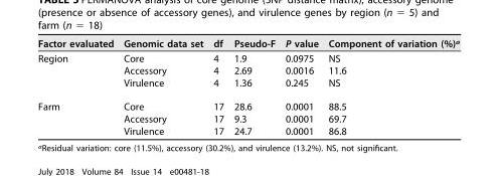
<table><thead><tr><td>Factor evaluated</td><td>Genomic data set</td><td>df</td><td>Pseudo-F</td><td>P value</td><td>Component of variation (%)<sup>a</sup></td></tr></thead><tbody><tr><td rowspan="3">Region</td><td>Core</td><td>4</td><td>1.9</td><td>0.0975</td><td>NS</td></tr><tr><td>Accessory</td><td>4</td><td>2.69</td><td>0.0016</td><td>11.6</td></tr><tr><td>Virulence</td><td>4</td><td>1.36</td><td>0.245</td><td>NS</td></tr><tr><td rowspan="3">Farm</td><td>Core</td><td>17</td><td>28.6</td><td>0.0001</td><td>88.5</td></tr><tr><td>Accessory</td><td>17</td><td>9.3</td><td>0.0001</td><td>69.7</td></tr><tr><td>Virulence</td><td>17</td><td>24.7</td><td>0.0001</td><td>86.8</td></tr></tbody></table>